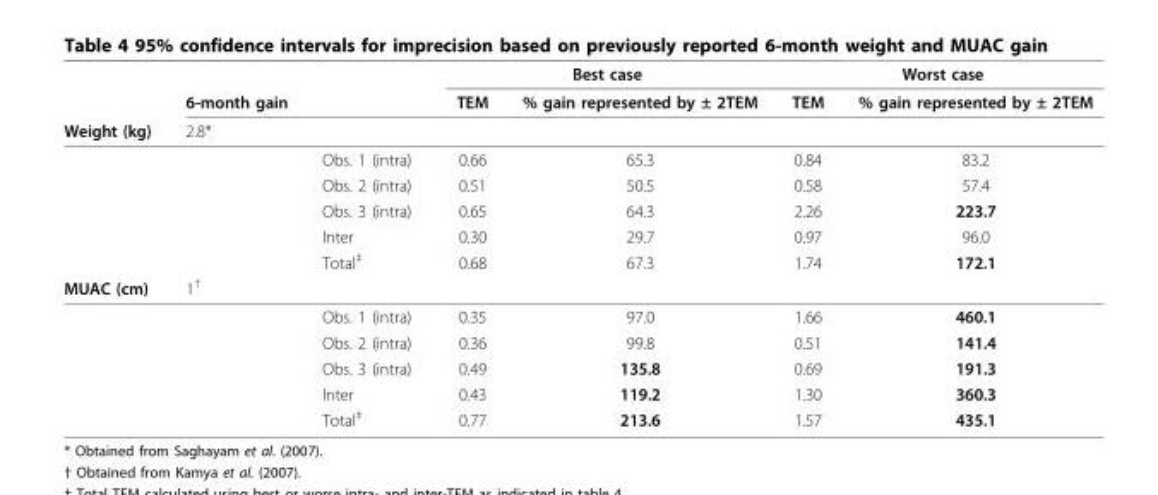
<table><thead><tr><td rowspan="3">Weight (kg)</td><td rowspan="3">6-month gain 2.8*</td><td rowspan="3"></td><td colspan="2">Best case</td><td colspan="2">Worst case</td></tr><tr><td rowspan="2">TEM</td><td rowspan="2">% gain represented by ± 2TEM</td><td rowspan="2">TEM</td><td rowspan="2">% gain represented by ± 2TEM</td></tr><tr></tr></thead><tbody><tr><td></td><td></td><td>Obs. 1 (intra)</td><td>0.66</td><td>65.3</td><td>0.84</td><td>83.2</td></tr><tr><td></td><td></td><td>Obs. 2 (intra)</td><td>0.51</td><td>50.5</td><td>0.58</td><td>57.4</td></tr><tr><td></td><td></td><td>Obs. 3 (intra)</td><td>0.65</td><td>64.3</td><td>2.26</td><td>223.7</td></tr><tr><td></td><td></td><td>Inter</td><td>0.30</td><td>29.7</td><td>0.97</td><td>96.0</td></tr><tr><td></td><td></td><td>Total<sup>‡</sup></td><td>0.68</td><td>67.3</td><td>1.74</td><td>172.1</td></tr><tr><td rowspan="6">MUAC (cm)</td><td>1†</td><td></td><td></td><td></td><td></td><td></td></tr><tr><td></td><td>Obs. 1 (intra)</td><td>0.35</td><td>97.0</td><td>1.66</td><td>460.1</td></tr><tr><td></td><td>Obs. 2 (intra)</td><td>0.36</td><td>99.8</td><td>0.51</td><td>141.4</td></tr><tr><td></td><td>Obs. 3 (intra)</td><td>0.49</td><td>135.8</td><td>0.69</td><td>191.3</td></tr><tr><td></td><td>Inter</td><td>0.43</td><td>119.2</td><td>1.30</td><td>360.3</td></tr><tr><td></td><td>Total<sup>‡</sup></td><td>0.77</td><td>213.6</td><td>1.57</td><td>435.1</td></tr></tbody></table>